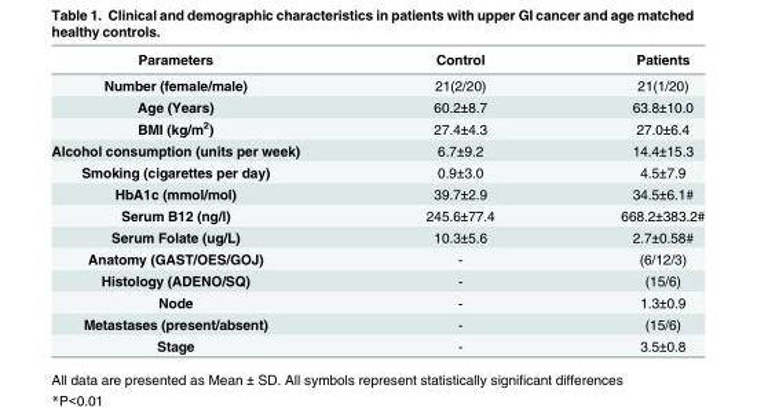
<table><thead><tr><td>Parameters</td><td>Control</td><td>Patients</td></tr></thead><tbody><tr><td>Number (female/male)</td><td>21(2/20)</td><td>21(1/20)</td></tr><tr><td>Age (Years)</td><td>60.2±8.7</td><td>63.8±10.0</td></tr><tr><td>BMI (kg/m<sup>2</sup>)</td><td>27.4±4.3</td><td>27.0±6.4</td></tr><tr><td>Alcohol consumption (units per week)</td><td>6.7±9.2</td><td>14.4±15.3</td></tr><tr><td>Smoking (cigarettes per day)</td><td>0.9±3.0</td><td>4.5±7.9</td></tr><tr><td>HbA1c (mmol/mol)</td><td>39.7±2.9</td><td>34.5±6.1#</td></tr><tr><td>Serum B12 (ng/l)</td><td>245.6±77.4</td><td>668.2±383.2#</td></tr><tr><td>Serum Folate (ug/L)</td><td>10.3±5.6</td><td>2.7±0.58#</td></tr><tr><td>Anatomy (GAST/OES/GOJ)</td><td>-</td><td>(6/12/3)</td></tr><tr><td>Histology (ADENO/SQ)</td><td>-</td><td>(15/6)</td></tr><tr><td>Node</td><td>-</td><td>1.3±0.9</td></tr><tr><td>Metastases (present/absent)</td><td>-</td><td>(15/6)</td></tr><tr><td>Stage</td><td>-</td><td>3.5±0.8</td></tr></tbody></table>